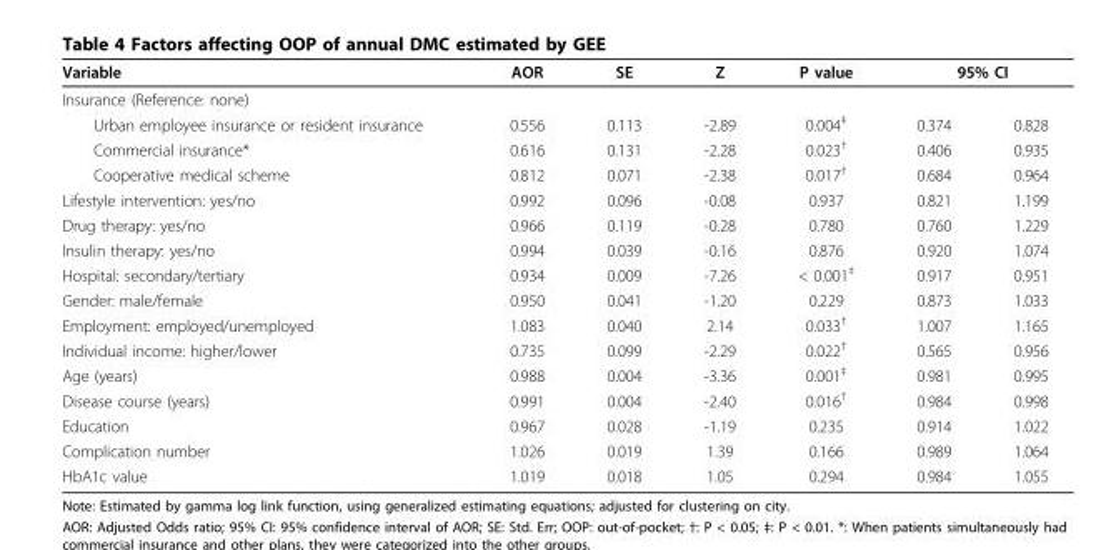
<table><thead><tr><td rowspan="2">Variable Insurance (Reference: none)</td><td rowspan="2">AOR</td><td rowspan="2">SE</td><td rowspan="2">Z</td><td rowspan="2">P value</td><td colspan="2">95% CI</td></tr><tr><td></td><td></td></tr></thead><tbody><tr><td>Urban employee insurance or resident insurance</td><td>0.556</td><td>0.113</td><td>-2.89</td><td>0.004<sup>‡</sup></td><td>0.374</td><td>0.828</td></tr><tr><td>Commercial insurance*</td><td>0.616</td><td>0.131</td><td>-2.28</td><td>0.023<sup>†</sup></td><td>0.406</td><td>0.935</td></tr><tr><td>Cooperative medical scheme</td><td>0.812</td><td>0.071</td><td>-2.38</td><td>0.017<sup>†</sup></td><td>0.684</td><td>0.964</td></tr><tr><td>Lifestyle intervention: yes/no</td><td>0.992</td><td>0.096</td><td>-0.08</td><td>0.937</td><td>0.821</td><td>1.199</td></tr><tr><td>Drug therapy: yes/no</td><td>0.966</td><td>0.119</td><td>-0.28</td><td>0.780</td><td>0.760</td><td>1.229</td></tr><tr><td>Insulin therapy: yes/no</td><td>0.994</td><td>0.039</td><td>-0.16</td><td>0.876</td><td>0.920</td><td>1.074</td></tr><tr><td>Hospital: secondary/tertiary</td><td>0.934</td><td>0.009</td><td>-7.26</td><td>&lt; 0.001<sup>‡</sup></td><td>0.917</td><td>0.951</td></tr><tr><td>Gender: male/female</td><td>0.950</td><td>0.041</td><td>-1.20</td><td>0.229</td><td>0.873</td><td>1.033</td></tr><tr><td>Employment: employed/unemployed</td><td>1.083</td><td>0.040</td><td>2.14</td><td>0.033<sup>†</sup></td><td>1.007</td><td>1.165</td></tr><tr><td>Individual income: higher/lower</td><td>0.735</td><td>0.099</td><td>-2.29</td><td>0.022<sup>†</sup></td><td>0.565</td><td>0.956</td></tr><tr><td>Age (years)</td><td>0.988</td><td>0.004</td><td>-3.36</td><td>0.001<sup>‡</sup></td><td>0.981</td><td>0.995</td></tr><tr><td>Disease course (years)</td><td>0.991</td><td>0.004</td><td>-2.40</td><td>0.016<sup>†</sup></td><td>0.984</td><td>0.998</td></tr><tr><td>Education</td><td>0.967</td><td>0.028</td><td>-1.19</td><td>0.235</td><td>0.914</td><td>1.022</td></tr><tr><td>Complication number</td><td>1.026</td><td>0.019</td><td>1.39</td><td>0.166</td><td>0.989</td><td>1.064</td></tr><tr><td>HbA1c value</td><td>1.019</td><td>0.018</td><td>1.05</td><td>0.294</td><td>0.984</td><td>1.055</td></tr></tbody></table>